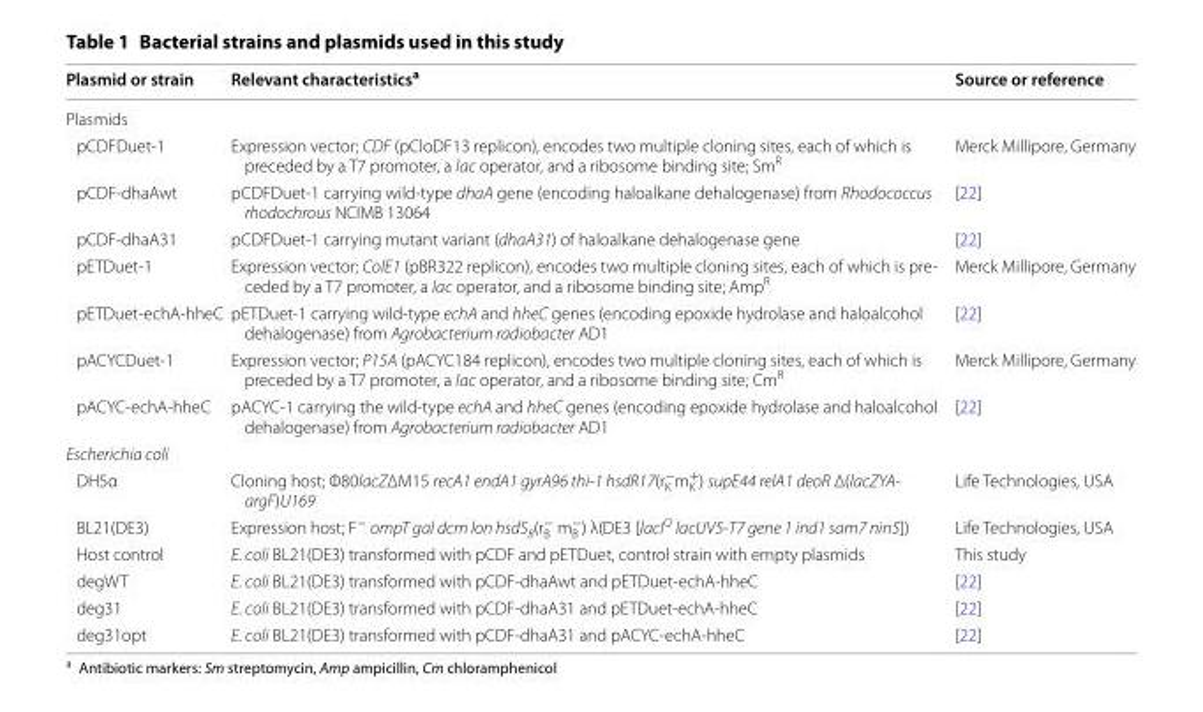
<table><thead><tr><td>Plasmid or strain</td><td>Relevant characteristics<sup>a</sup></td><td>Source or reference</td></tr></thead><tbody><tr><td colspan="3">Plasmids</td></tr><tr><td>pCDFDuet-1</td><td>Expression vector; CDF (pCloDF13 replicon), encodes two multiple cloning sites, each of which is preceded by a T7 promoter, a lac operator, and a ribosome binding site; Sm<sup>R</sup></td><td>Merck Millipore, Germany</td></tr><tr><td>pCDF-dhaAwt</td><td>pCDFDuet-1 carrying wild-type dhaA gene (encoding haloalkane dehalogenase) from Rhodococcus rhodochrous NCIMB 13064</td><td>[22]</td></tr><tr><td>pCDF-dhaA31</td><td>pCDFDuet-1 carrying mutant variant (dhaA31) of haloalkane dehalogenase gene</td><td>[22]</td></tr><tr><td>pETDuet-1</td><td>Expression vector; ColE1 (pBR322 replicon), encodes two multiple cloning sites, each of which is pre- ceded by a T7 promoter, a lac operator, and a ribosome binding site; AmpR</td><td>Merck Millipore, Germany</td></tr><tr><td>pETDuet-echA-hheC</td><td>pETDuet-1 carrying wild-type echA and hheC genes (encoding epoxide hydrolase and haloalcohol dehalogenase) from Agrobacterium radiobacter AD1</td><td>[22]</td></tr><tr><td>pACYCDuet-1</td><td>Expression vector; P15A (pACYC184 replicon), encodes two multiple cloning sites, each of which is preceded by a T7 promoter, a lac operator, and a ribosome binding site; Cm<sup>R</sup></td><td>Merck Millipore, Germany</td></tr><tr><td>pACYC-echA-hheC</td><td>pACYC-1 carrying the wild-type echA and hheC genes (encoding epoxide hydrolase and haloalcohol dehalogenase) from Agrobacterium radiobacter AD1</td><td>[22]</td></tr><tr><td colspan="3">Escherichia coli</td></tr><tr><td>DH5α</td><td>Cloning host; Φ80lacZΔM15 recA1 endA1 gyrA96 thi-1 hsdR17(r<sub>K</sub> <sup>−</sup>m<sub>K</sub> <sup>+</sup>) supE44 relA1 deoR Δ(lacZYA- argF)U169</td><td>Life Technologies, USA</td></tr><tr><td>BL21(DE3)</td><td>Expression host; F<sup>−</sup> ompT gal dcm lon hsdS<sub>B</sub>(r<sub>B</sub> <sup>−</sup> m<sub>B</sub> <sup>−</sup>) λ(DE3 [lacI<sup>Q</sup> lacUV5-T7 gene 1 ind1 sam7 nin5])</td><td>Life Technologies, USA</td></tr><tr><td>Host control</td><td>E. coli BL21(DE3) transformed with pCDF and pETDuet, control strain with empty plasmids</td><td>This study</td></tr><tr><td>degWT</td><td>E. coli BL21(DE3) transformed with pCDF-dhaAwt and pETDuet-echA-hheC</td><td>[22]</td></tr><tr><td>deg31</td><td>E. coli BL21(DE3) transformed with pCDF-dhaA31 and pETDuet-echA-hheC</td><td>[22]</td></tr><tr><td>deg31opt</td><td>E. coli BL21(DE3) transformed with pCDF-dhaA31 and pACYC-echA-hheC</td><td>[22]</td></tr></tbody></table>